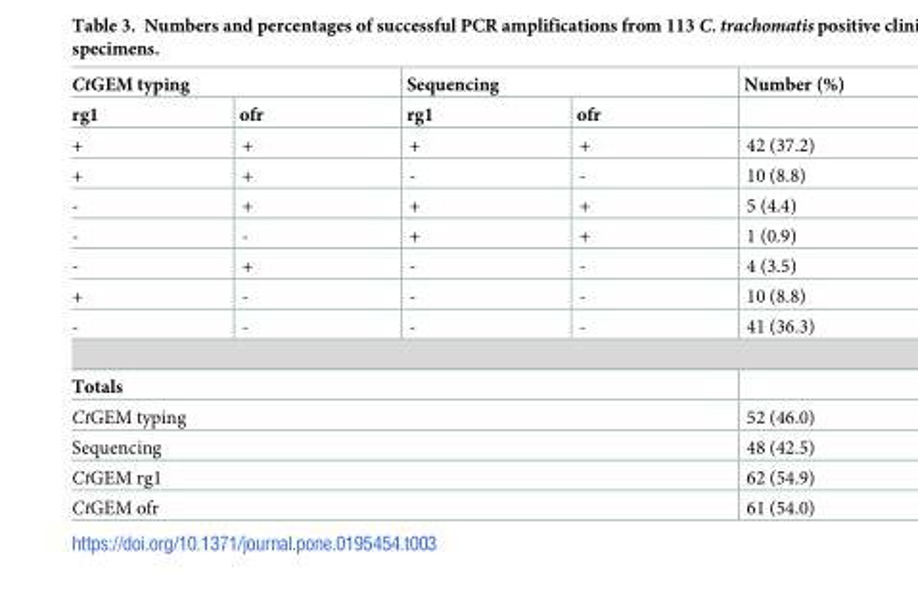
<table><thead><tr><td colspan="2">CtGEM typing</td><td colspan="2">Sequencing</td><td rowspan="2">Number (%)</td></tr><tr><td>rg1</td><td>ofr</td><td>rg1</td><td>ofr</td></tr></thead><tbody><tr><td>+</td><td>+</td><td>+</td><td>+</td><td>42 (37.2)</td></tr><tr><td>+</td><td>+</td><td>-</td><td>-</td><td>10 (8.8)</td></tr><tr><td>-</td><td>+</td><td>+</td><td>+</td><td>5 (4.4)</td></tr><tr><td>-</td><td>-</td><td>+</td><td>+</td><td>1 (0.9)</td></tr><tr><td>-</td><td>+</td><td>-</td><td>-</td><td>4 (3.5)</td></tr><tr><td>+</td><td>-</td><td>-</td><td>-</td><td>10 (8.8)</td></tr><tr><td>-</td><td>-</td><td>-</td><td>-</td><td>41 (36.3)</td></tr><tr><td colspan="5">Totals</td></tr><tr><td colspan="4">CtGEM typing</td><td>52 (46.0)</td></tr><tr><td colspan="4">Sequencing</td><td>48 (42.5)</td></tr><tr><td colspan="4">CtGEM rg1</td><td>62 (54.9)</td></tr><tr><td colspan="4">CtGEM ofr</td><td>61 (54.0)</td></tr></tbody></table>